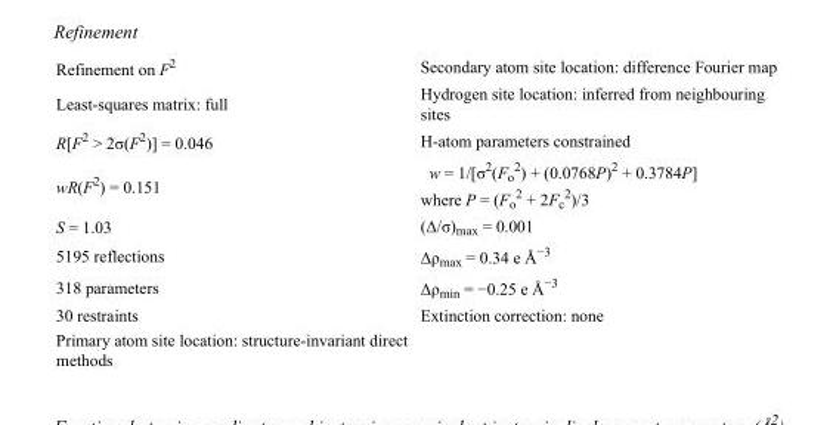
<table><tbody><tr><td>Refinement on F<sup>2</sup></td><td>Secondary atom site location: difference Fourier map</td></tr><tr><td>Least-squares matrix: full</td><td>Hydrogen site location: inferred from neighbouring sites</td></tr><tr><td>R[F<sup>2</sup> &gt; 2σ(F<sup>2</sup>)] = 0.046</td><td>H-atom parameters constrained</td></tr><tr><td>wR(F<sup>2</sup>) = 0.151</td><td>w = 1/[σ<sup>2</sup>(F<sub>o</sub> <sup>2</sup>) + (0.0768P)<sup>2</sup> + 0.3784P] where P = (F<sub>o</sub> <sup>2</sup> + 2F<sub>c</sub> <sup>2</sup>)/3</td></tr><tr><td>S = 1.03</td><td>(Δ/σ)<sub>max</sub> = 0.001</td></tr><tr><td>5195 reflections</td><td>Δρ<sub>max</sub> = 0.34 e Å<sup>−3</sup></td></tr><tr><td>318 parameters</td><td>Δρ<sub>min</sub> = −0.25 e Å<sup>−3</sup></td></tr><tr><td>30 restraints</td><td>Extinction correction: none</td></tr><tr><td>Primary atom site location: structure-invariant direct methods</td><td></td></tr></tbody></table>